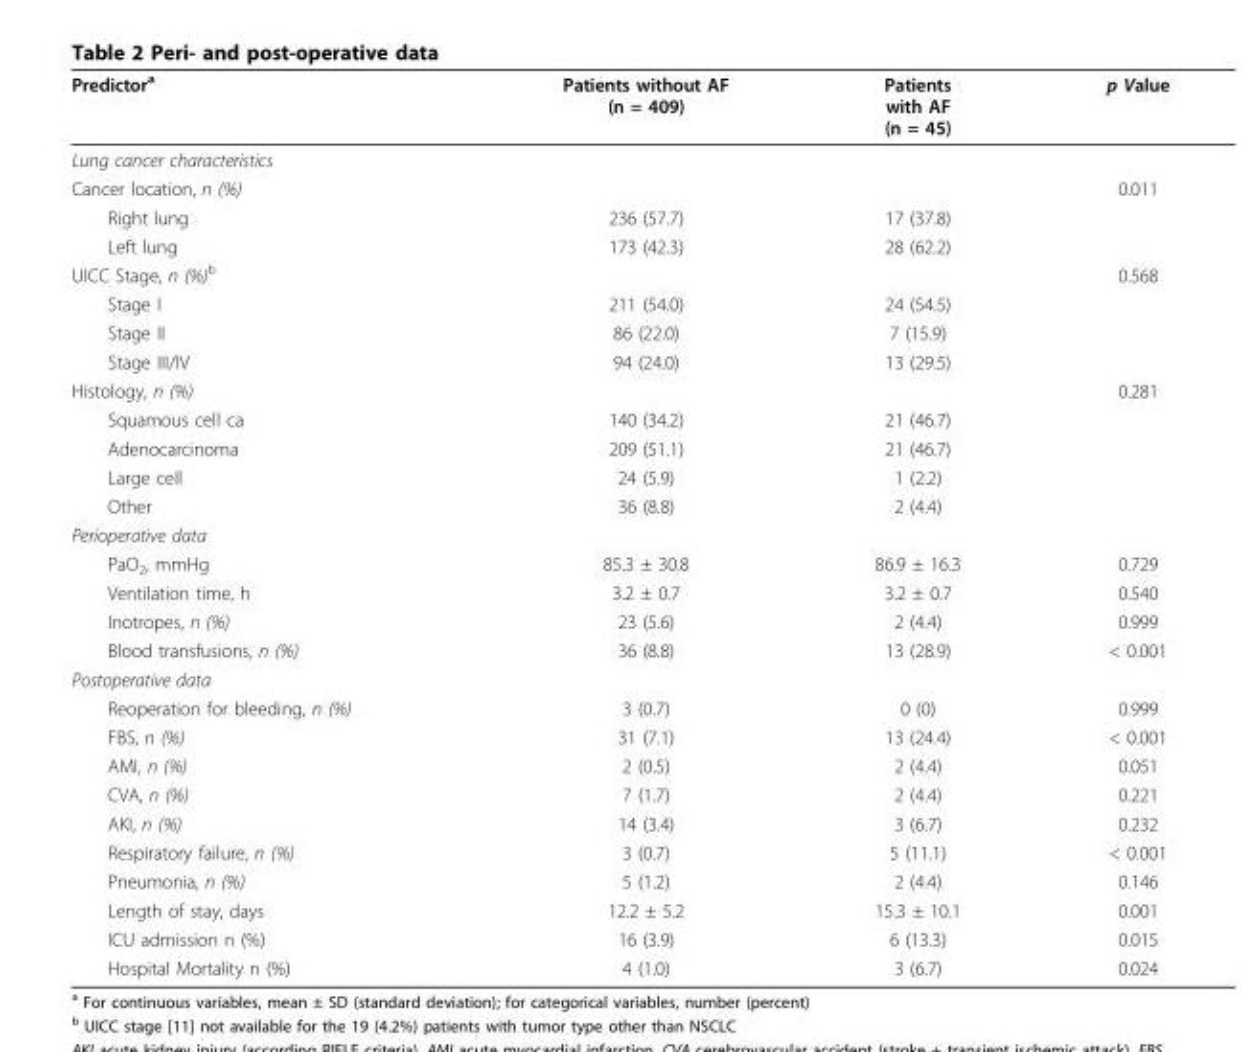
<table><thead><tr><td>Predictor<sup>a</sup></td><td>Patients without AF (n = 409)</td><td>Patients with AF (n = 45)</td><td>p Value</td></tr></thead><tbody><tr><td colspan="4">Lung cancer characteristics</td></tr><tr><td>Cancer location, n (%)</td><td></td><td></td><td>0.011</td></tr><tr><td>Right lung</td><td>236 (57.7)</td><td>17 (37.8)</td><td></td></tr><tr><td>Left lung</td><td>173 (42.3)</td><td>28 (62.2)</td><td></td></tr><tr><td>UICC Stage, n (%)<sup>b</sup></td><td></td><td></td><td>0.568</td></tr><tr><td>Stage I</td><td>211 (54.0)</td><td>24 (54.5)</td><td></td></tr><tr><td>Stage II</td><td>86 (22.0)</td><td>7 (15.9)</td><td></td></tr><tr><td>Stage III/IV</td><td>94 (24.0)</td><td>13 (29.5)</td><td></td></tr><tr><td>Histology, n (%)</td><td></td><td></td><td>0.281</td></tr><tr><td>Squamous cell ca</td><td>140 (34.2)</td><td>21 (46.7)</td><td></td></tr><tr><td>Adenocarcinoma</td><td>209 (51.1)</td><td>21 (46.7)</td><td></td></tr><tr><td>Large cell</td><td>24 (5.9)</td><td>1 (2.2)</td><td></td></tr><tr><td>Other</td><td>36 (8.8)</td><td>2 (4.4)</td><td></td></tr><tr><td colspan="4">Perioperative data</td></tr><tr><td>PaO<sub>2</sub>, mmHg</td><td>85.3 ± 30.8</td><td>86.9 ± 16.3</td><td>0.729</td></tr><tr><td>Ventilation time, h</td><td>3.2 ± 0.7</td><td>3.2 ± 0.7</td><td>0.540</td></tr><tr><td>Inotropes, n (%)</td><td>23 (5.6)</td><td>2 (4.4)</td><td>0.999</td></tr><tr><td>Blood transfusions, n (%)</td><td>36 (8.8)</td><td>13 (28.9)</td><td>&lt; 0.001</td></tr><tr><td colspan="4">Postoperative data</td></tr><tr><td>Reoperation for bleeding, n (%)</td><td>3 (0.7)</td><td>0 (0)</td><td>0.999</td></tr><tr><td>FBS, n (%)</td><td>31 (7.1)</td><td>13 (24.4)</td><td>&lt; 0.001</td></tr><tr><td>AMI, n (%)</td><td>2 (0.5)</td><td>2 (4.4)</td><td>0.051</td></tr><tr><td>CVA, n (%)</td><td>7 (1.7)</td><td>2 (4.4)</td><td>0.221</td></tr><tr><td>AKI, n (%)</td><td>14 (3.4)</td><td>3 (6.7)</td><td>0.232</td></tr><tr><td>Respiratory failure, n (%)</td><td>3 (0.7)</td><td>5 (11.1)</td><td>&lt; 0.001</td></tr><tr><td>Pneumonia, n (%)</td><td>5 (1.2)</td><td>2 (4.4)</td><td>0.146</td></tr><tr><td>Length of stay, days</td><td>12.2 ± 5.2</td><td>15.3 ± 10.1</td><td>0.001</td></tr><tr><td>ICU admission n (%)</td><td>16 (3.9)</td><td>6 (13.3)</td><td>0.015</td></tr><tr><td>Hospital Mortality n (%)</td><td>4 (1.0)</td><td>3 (6.7)</td><td>0.024</td></tr></tbody></table>